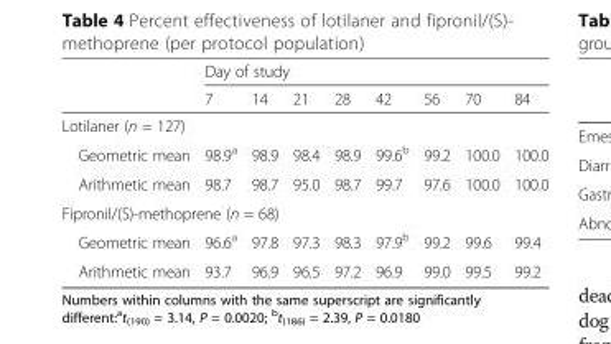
<table><thead><tr><td rowspan="2"></td><td colspan="8">Day of study</td></tr><tr><td>7</td><td>14</td><td>21</td><td>28</td><td>42</td><td>56</td><td>70</td><td>84</td></tr></thead><tbody><tr><td colspan="9">Lotilaner (n = 127)</td></tr><tr><td>Geometric mean</td><td>98.9<sup>a</sup></td><td>98.9</td><td>98.4</td><td>98.9</td><td>99.6<sup>b</sup></td><td>99.2</td><td>100.0</td><td>100.0</td></tr><tr><td>Arithmetic mean</td><td>98.7</td><td>98.7</td><td>95.0</td><td>98.7</td><td>99.7</td><td>97.6</td><td>100.0</td><td>100.0</td></tr><tr><td colspan="9">Fipronil/(S)-methoprene (n = 68)</td></tr><tr><td>Geometric mean</td><td>96.6<sup>a</sup></td><td>97.8</td><td>97.3</td><td>98.3</td><td>97.9<sup>b</sup></td><td>99.2</td><td>99.6</td><td>99.4</td></tr><tr><td>Arithmetic mean</td><td>93.7</td><td>96.9</td><td>96.5</td><td>97.2</td><td>96.9</td><td>99.0</td><td>99.5</td><td>99.2</td></tr></tbody></table>